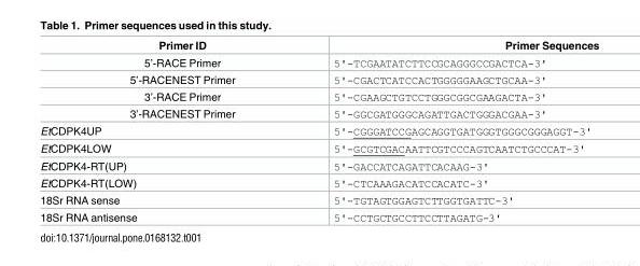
<table><thead><tr><td>Primer ID</td><td>Primer Sequences</td></tr></thead><tbody><tr><td>5’-RACE Primer</td><td>5&#x27;-TCGAATATCTTCCGCAGGGCCGACTCA-3&#x27;</td></tr><tr><td>5’-RACENEST Primer</td><td>5&#x27;-CGACTCATCCACTGGGGGAAGCTGCAA-3&#x27;</td></tr><tr><td>3’-RACE Primer</td><td>5&#x27;-CGAAGCTGTCCTGGGCGGCGAAGACTA-3&#x27;</td></tr><tr><td>3’-RACENEST Primer</td><td>5&#x27;-GGCGATGGGCAGATTGACTGGGACGAA-3&#x27;</td></tr><tr><td>EtCDPK4UP</td><td>5&#x27;-CGGGATCCGAGCAGGTGATGGGTGGGCGGGAGGT-3&#x27;</td></tr><tr><td>EtCDPK4LOW</td><td>5&#x27;-GCGTCGACAATTCGTCCCAGTCAATCTGCCCAT-3&#x27;</td></tr><tr><td>EtCDPK4-RT(UP)</td><td>5&#x27;-GACCATCAGATTCACAAG-3&#x27;</td></tr><tr><td>EtCDPK4-RT(LOW)</td><td>5&#x27;-CTCAAAGACATCCACATC-3&#x27;</td></tr><tr><td>18Sr RNA sense</td><td>5&#x27;-TGTAGTGGAGTCTTGGTGATTC-3&#x27;</td></tr><tr><td>18Sr RNA antisense</td><td>5&#x27;-CCTGCTGCCTTCCTTAGATG-3&#x27;</td></tr></tbody></table>